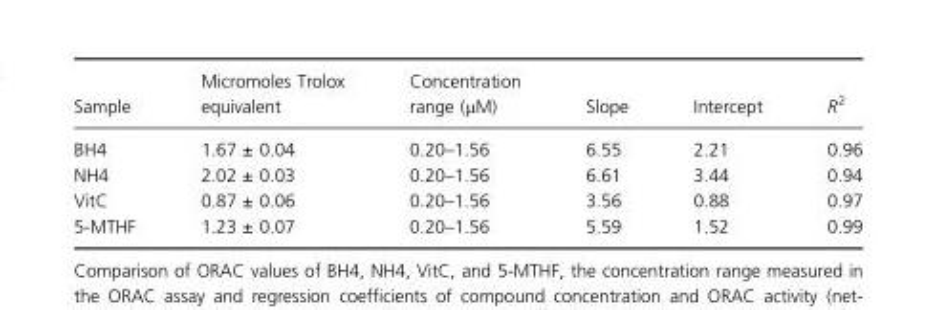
<table><thead><tr><td>Sample</td><td>Micromoles Trolox equivalent</td><td>Concentration range (μM)</td><td>Slope</td><td>Intercept</td><td>R<sup>2</sup></td></tr></thead><tbody><tr><td>BH4</td><td>1.67 ± 0.04</td><td>0.20–1.56</td><td>6.55</td><td>2.21</td><td>0.96</td></tr><tr><td>NH4</td><td>2.02 ± 0.03</td><td>0.20–1.56</td><td>6.61</td><td>3.44</td><td>0.94</td></tr><tr><td>VitC</td><td>0.87 ± 0.06</td><td>0.20–1.56</td><td>3.56</td><td>0.88</td><td>0.97</td></tr><tr><td>5-MTHF</td><td>1.23 ± 0.07</td><td>0.20–1.56</td><td>5.59</td><td>1.52</td><td>0.99</td></tr></tbody></table>